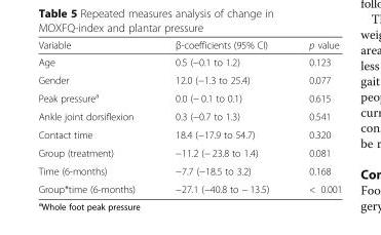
<table><thead><tr><td>Variable</td><td>β-coefficients (95% CI)</td><td>p value</td></tr></thead><tbody><tr><td>Age</td><td>0.5 (−0.1 to 1.2)</td><td>0.123</td></tr><tr><td>Gender</td><td>12.0 (−1.3 to 25.4)</td><td>0.077</td></tr><tr><td>Peak pressure<sup>a</sup></td><td>0.0 (− 0.1 to 0.1)</td><td>0.615</td></tr><tr><td>Ankle joint dorsiflexion</td><td>0.3 (−0.7 to 1.3)</td><td>0.541</td></tr><tr><td>Contact time</td><td>18.4 (−17.9 to 54.7)</td><td>0.320</td></tr><tr><td>Group (treatment)</td><td>−11.2 (− 23.8 to 1.4)</td><td>0.081</td></tr><tr><td>Time (6-months)</td><td>−7.7 (−18.5 to 3.2)</td><td>0.168</td></tr><tr><td>Group*time (6-months)</td><td>−27.1 (−40.8 to − 13.5)</td><td>&lt; 0.001</td></tr></tbody></table>